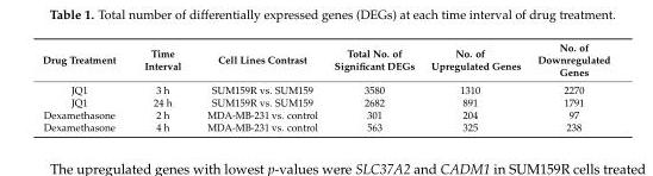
<table><thead><tr><td>Drug Treatment</td><td>Time Interval</td><td>Cell Lines Contrast</td><td>Total No. of Significant DEGs</td><td>No. of Upregulated Genes</td><td>No. of Downregulated Genes</td></tr></thead><tbody><tr><td>JQ1</td><td>3 h</td><td>SUM159R vs. SUM159</td><td>3580</td><td>1310</td><td>2270</td></tr><tr><td>JQ1</td><td>24 h</td><td>SUM159R vs. SUM159</td><td>2682</td><td>891</td><td>1791</td></tr><tr><td>Dexamethasone</td><td>2 h</td><td>MDA-MB-231 vs. control</td><td>301</td><td>204</td><td>97</td></tr><tr><td>Dexamethasone</td><td>4 h</td><td>MDA-MB-231 vs. control</td><td>563</td><td>325</td><td>238</td></tr></tbody></table>